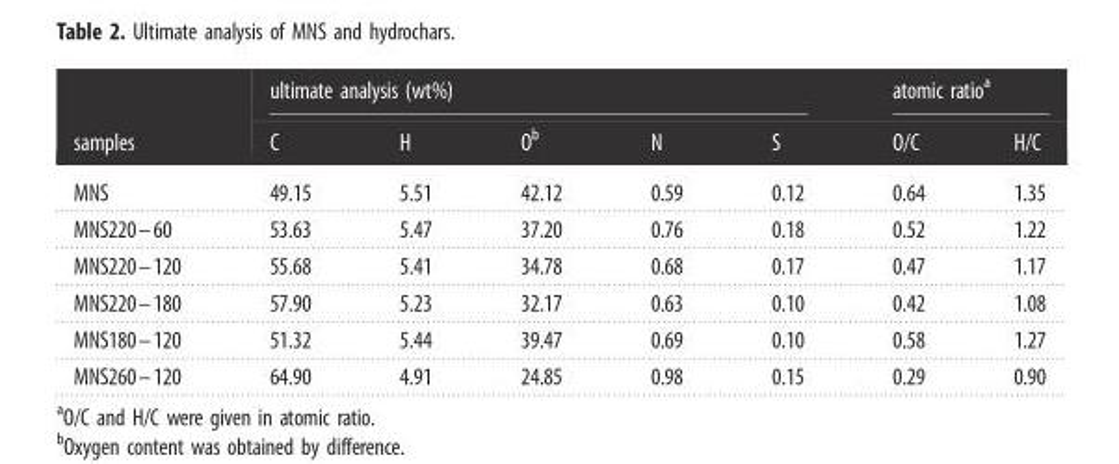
<table><thead><tr><td rowspan="2">samples</td><td colspan="5">ultimate analysis (wt%)</td><td colspan="2">atomic ratio<sup>a</sup></td></tr><tr><td>C</td><td>H</td><td>O<sup>b</sup></td><td>N</td><td>S</td><td>O/C</td><td>H/C</td></tr></thead><tbody><tr><td>MNS</td><td>49.15</td><td>5.51</td><td>42.12</td><td>0.59</td><td>0.12</td><td>0.64</td><td>1.35</td></tr><tr><td>MNS220–60</td><td>53.63</td><td>5.47</td><td>37.20</td><td>0.76</td><td>0.18</td><td>0.52</td><td>1.22</td></tr><tr><td>MNS220–120</td><td>55.68</td><td>5.41</td><td>34.78</td><td>0.68</td><td>0.17</td><td>0.47</td><td>1.17</td></tr><tr><td>MNS220–180</td><td>57.90</td><td>5.23</td><td>32.17</td><td>0.63</td><td>0.10</td><td>0.42</td><td>1.08</td></tr><tr><td>MNS180–120</td><td>51.32</td><td>5.44</td><td>39.47</td><td>0.69</td><td>0.10</td><td>0.58</td><td>1.27</td></tr><tr><td>MNS260–120</td><td>64.90</td><td>4.91</td><td>24.85</td><td>0.98</td><td>0.15</td><td>0.29</td><td>0.90</td></tr></tbody></table>